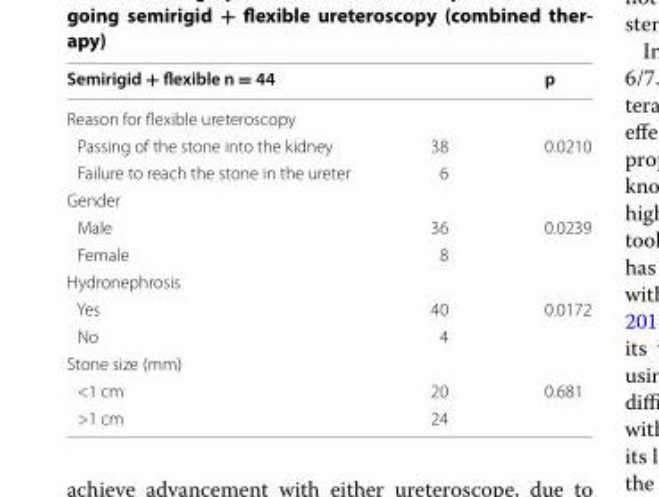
<table><thead><tr><td>Semirigid + flexible n = 44</td><td></td><td>p</td></tr></thead><tbody><tr><td colspan="3">Reason for flexible ureteroscopy</td></tr><tr><td>Passing of the stone into the kidney</td><td>38</td><td rowspan="2">0.0210</td></tr><tr><td>Failure to reach the stone in the ureter</td><td>6</td></tr><tr><td colspan="3">Gender</td></tr><tr><td>Male</td><td>36</td><td rowspan="2">0.0239</td></tr><tr><td>Female</td><td>8</td></tr><tr><td colspan="3">Hydronephrosis</td></tr><tr><td>Yes</td><td>40</td><td rowspan="2">0.0172</td></tr><tr><td>No</td><td>4</td></tr><tr><td colspan="3">Stone size (mm)</td></tr><tr><td>&lt;1 cm</td><td>20</td><td rowspan="2">0.681</td></tr><tr><td>&gt;1 cm</td><td>24</td></tr></tbody></table>